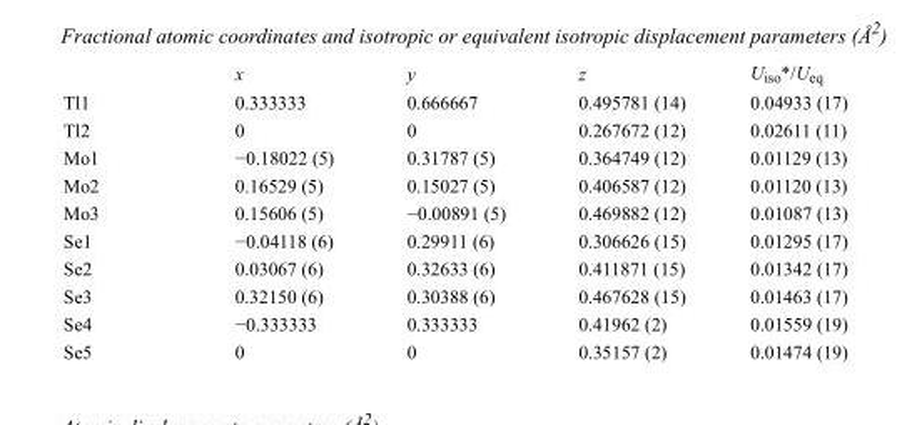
<table><thead><tr><td></td><td>x</td><td>y</td><td>z</td><td>U<sub>iso</sub>*/U<sub>eq</sub></td></tr></thead><tbody><tr><td>Tl1</td><td>0.333333</td><td>0.666667</td><td>0.495781 (14)</td><td>0.04933 (17)</td></tr><tr><td>Tl2</td><td>0</td><td>0</td><td>0.267672 (12)</td><td>0.02611 (11)</td></tr><tr><td>Mo1</td><td>−0.18022 (5)</td><td>0.31787 (5)</td><td>0.364749 (12)</td><td>0.01129 (13)</td></tr><tr><td>Mo2</td><td>0.16529 (5)</td><td>0.15027 (5)</td><td>0.406587 (12)</td><td>0.01120 (13)</td></tr><tr><td>Mo3</td><td>0.15606 (5)</td><td>−0.00891 (5)</td><td>0.469882 (12)</td><td>0.01087 (13)</td></tr><tr><td>Se1</td><td>−0.04118 (6)</td><td>0.29911 (6)</td><td>0.306626 (15)</td><td>0.01295 (17)</td></tr><tr><td>Se2</td><td>0.03067 (6)</td><td>0.32633 (6)</td><td>0.411871 (15)</td><td>0.01342 (17)</td></tr><tr><td>Se3</td><td>0.32150 (6)</td><td>0.30388 (6)</td><td>0.467628 (15)</td><td>0.01463 (17)</td></tr><tr><td>Se4</td><td>−0.333333</td><td>0.333333</td><td>0.41962 (2)</td><td>0.01559 (19)</td></tr><tr><td>Se5</td><td>0</td><td>0</td><td>0.35157 (2)</td><td>0.01474 (19)</td></tr></tbody></table>